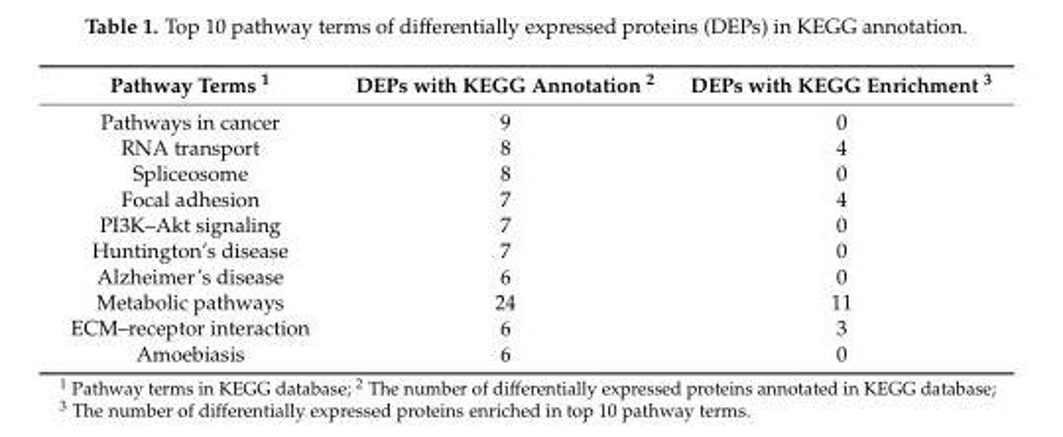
<table><thead><tr><td>Pathway Terms <sup>1</sup></td><td>DEPs with KEGG Annotation <sup>2</sup></td><td>DEPs with KEGG Enrichment <sup>3</sup></td></tr></thead><tbody><tr><td>Pathways in cancer</td><td>9</td><td>0</td></tr><tr><td>RNA transport</td><td>8</td><td>4</td></tr><tr><td>Spliceosome</td><td>8</td><td>0</td></tr><tr><td>Focal adhesion</td><td>7</td><td>4</td></tr><tr><td>PI3K–Akt signaling</td><td>7</td><td>0</td></tr><tr><td>Huntington’s disease</td><td>7</td><td>0</td></tr><tr><td>Alzheimer’s disease</td><td>6</td><td>0</td></tr><tr><td>Metabolic pathways</td><td>24</td><td>11</td></tr><tr><td>ECM–receptor interaction</td><td>6</td><td>3</td></tr><tr><td>Amoebiasis</td><td>6</td><td>0</td></tr></tbody></table>